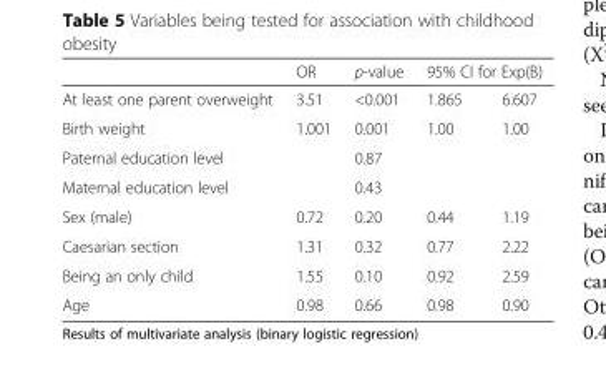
<table><thead><tr><td rowspan="2">At least one parent overweight</td><td rowspan="2">OR 3.51</td><td rowspan="2">p-value &lt;0.001</td><td colspan="2">95% CI for Exp(B)</td></tr><tr><td>1.865</td><td>6.607</td></tr></thead><tbody><tr><td>Birth weight</td><td>1.001</td><td>0.001</td><td>1.00</td><td>1.00</td></tr><tr><td>Paternal education level</td><td></td><td>0.87</td><td></td><td></td></tr><tr><td>Maternal education level</td><td></td><td>0.43</td><td></td><td></td></tr><tr><td>Sex (male)</td><td>0.72</td><td>0.20</td><td>0.44</td><td>1.19</td></tr><tr><td>Caesarian section</td><td>1.31</td><td>0.32</td><td>0.77</td><td>2.22</td></tr><tr><td>Being an only child</td><td>1.55</td><td>0.10</td><td>0.92</td><td>2.59</td></tr><tr><td>Age</td><td>0.98</td><td>0.66</td><td>0.98</td><td>0.90</td></tr></tbody></table>